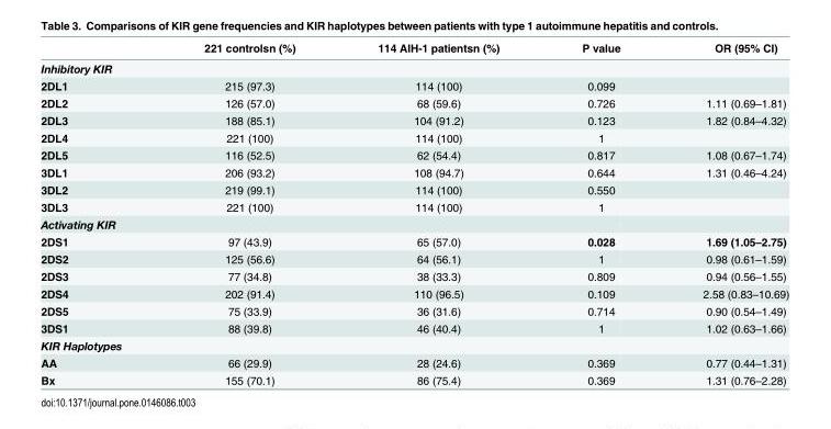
<table><thead><tr><td></td><td>221 controlsn (%)</td><td>114 AIH-1 patientsn (%)</td><td>P value</td><td>OR (95% CI)</td></tr></thead><tbody><tr><td colspan="5">Inhibitory KIR</td></tr><tr><td>2DL1</td><td>215 (97.3)</td><td>114 (100)</td><td>0.099</td><td></td></tr><tr><td>2DL2</td><td>126 (57.0)</td><td>68 (59.6)</td><td>0.726</td><td>1.11 (0.69–1.81)</td></tr><tr><td>2DL3</td><td>188 (85.1)</td><td>104 (91.2)</td><td>0.123</td><td>1.82 (0.84–4.32)</td></tr><tr><td>2DL4</td><td>221 (100)</td><td>114 (100)</td><td>1</td><td></td></tr><tr><td>2DL5</td><td>116 (52.5)</td><td>62 (54.4)</td><td>0.817</td><td>1.08 (0.67–1.74)</td></tr><tr><td>3DL1</td><td>206 (93.2)</td><td>108 (94.7)</td><td>0.644</td><td>1.31 (0.46–4.24)</td></tr><tr><td>3DL2</td><td>219 (99.1)</td><td>114 (100)</td><td>0.550</td><td></td></tr><tr><td>3DL3</td><td>221 (100)</td><td>114 (100)</td><td>1</td><td></td></tr><tr><td colspan="5">Activating KIR</td></tr><tr><td>2DS1</td><td>97 (43.9)</td><td>65 (57.0)</td><td>0.028</td><td>1.69 (1.05–2.75)</td></tr><tr><td>2DS2</td><td>125 (56.6)</td><td>64 (56.1)</td><td>1</td><td>0.98 (0.61–1.59)</td></tr><tr><td>2DS3</td><td>77 (34.8)</td><td>38 (33.3)</td><td>0.809</td><td>0.94 (0.56–1.55)</td></tr><tr><td>2DS4</td><td>202 (91.4)</td><td>110 (96.5)</td><td>0.109</td><td>2.58 (0.83–10.69)</td></tr><tr><td>2DS5</td><td>75 (33.9)</td><td>36 (31.6)</td><td>0.714</td><td>0.90 (0.54–1.49)</td></tr><tr><td>3DS1</td><td>88 (39.8)</td><td>46 (40.4)</td><td>1</td><td>1.02 (0.63–1.66)</td></tr><tr><td colspan="5">KIR Haplotypes</td></tr><tr><td>AA</td><td>66 (29.9)</td><td>28 (24.6)</td><td>0.369</td><td>0.77 (0.44–1.31)</td></tr><tr><td>Bx</td><td>155 (70.1)</td><td>86 (75.4)</td><td>0.369</td><td>1.31 (0.76–2.28)</td></tr></tbody></table>